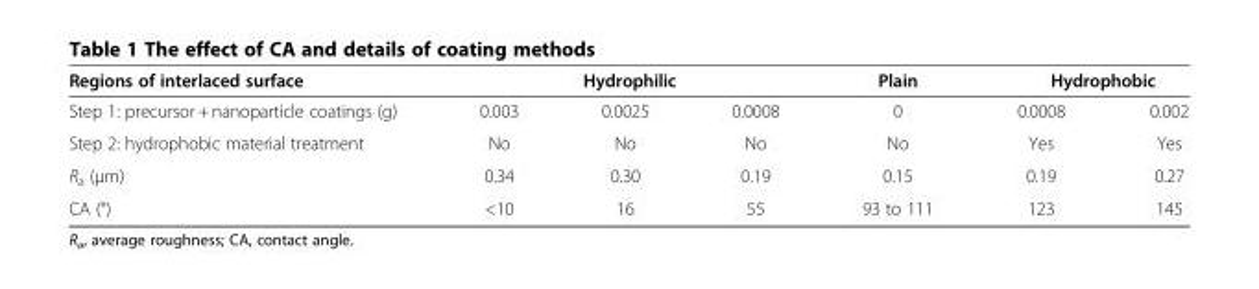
<table><thead><tr><td rowspan="2">Regions of interlaced surface Step 1: precursor + nanoparticle coatings (g)</td><td rowspan="2">0.003</td><td rowspan="2">Hydrophilic 0.0025</td><td rowspan="2">0.0008</td><td rowspan="2">Plain 0</td><td colspan="2">Hydrophobic</td></tr><tr><td>0.0008</td><td>0.002</td></tr></thead><tbody><tr><td>Step 2: hydrophobic material treatment</td><td>No</td><td>No</td><td>No</td><td>No</td><td>Yes</td><td>Yes</td></tr><tr><td>R<sub>a</sub> (μm)</td><td>0.34</td><td>0.30</td><td>0.19</td><td>0.15</td><td>0.19</td><td>0.27</td></tr><tr><td>CA (°)</td><td>&lt;10</td><td>16</td><td>55</td><td>93 to 111</td><td>123</td><td>145</td></tr></tbody></table>